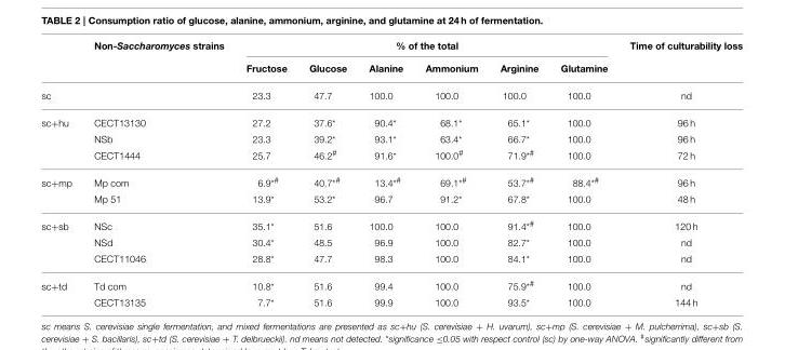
<table><thead><tr><td rowspan="2"></td><td rowspan="2">Non-Saccharomyces strains</td><td colspan="6">% of the total</td><td rowspan="2">Time of culturability loss</td></tr><tr><td>Fructose</td><td>Glucose</td><td>Alanine</td><td>Ammonium</td><td>Arginine</td><td>Glutamine</td></tr></thead><tbody><tr><td>sc</td><td></td><td>23.3</td><td>47.7</td><td>100.0</td><td>100.0</td><td>100.0</td><td>100.0</td><td>nd</td></tr><tr><td rowspan="3">sc+hu</td><td>CECT13130</td><td>27.2</td><td>37.6*</td><td>90.4*</td><td>68.1*</td><td>65.1*</td><td>100.0</td><td>96 h</td></tr><tr><td>NSb</td><td>23.3</td><td>39.2*</td><td>93.1*</td><td>63.4*</td><td>66.7*</td><td>100.0</td><td>96 h</td></tr><tr><td>CECT1444</td><td>25.7</td><td>46.2<sup>#</sup></td><td>91.6*</td><td>100.0<sup>#</sup></td><td>71.9<sup>*#</sup></td><td>100.0</td><td>72 h</td></tr><tr><td rowspan="2">sc+mp</td><td>Mp com</td><td>6.9<sup>*#</sup></td><td>40.7<sup>*#</sup></td><td>13.4<sup>*#</sup></td><td>69.1<sup>*#</sup></td><td>53.7<sup>*#</sup></td><td>88.4<sup>*#</sup></td><td>96 h</td></tr><tr><td>Mp 51</td><td>13.9*</td><td>53.2*</td><td>96.7</td><td>91.2*</td><td>67.8*</td><td>100.0</td><td>48 h</td></tr><tr><td rowspan="3">sc+sb</td><td>NSc</td><td>35.1*</td><td>51.6</td><td>100.0</td><td>100.0</td><td>91.4<sup>*#</sup></td><td>100.0</td><td>120 h</td></tr><tr><td>NSd</td><td>30.4*</td><td>48.5</td><td>96.9</td><td>100.0</td><td>82.7*</td><td>100.0</td><td>nd</td></tr><tr><td>CECT11046</td><td>28.8*</td><td>47.7</td><td>98.3</td><td>100.0</td><td>84.1*</td><td>100.0</td><td>nd</td></tr><tr><td rowspan="2">sc+td</td><td>Td com</td><td>10.8*</td><td>51.6</td><td>99.4</td><td>100.0</td><td>75.9<sup>*#</sup></td><td>100.0</td><td>nd</td></tr><tr><td>CECT13135</td><td>7.7*</td><td>51.6</td><td>99.9</td><td>100.0</td><td>93.5*</td><td>100.0</td><td>144 h</td></tr></tbody></table>